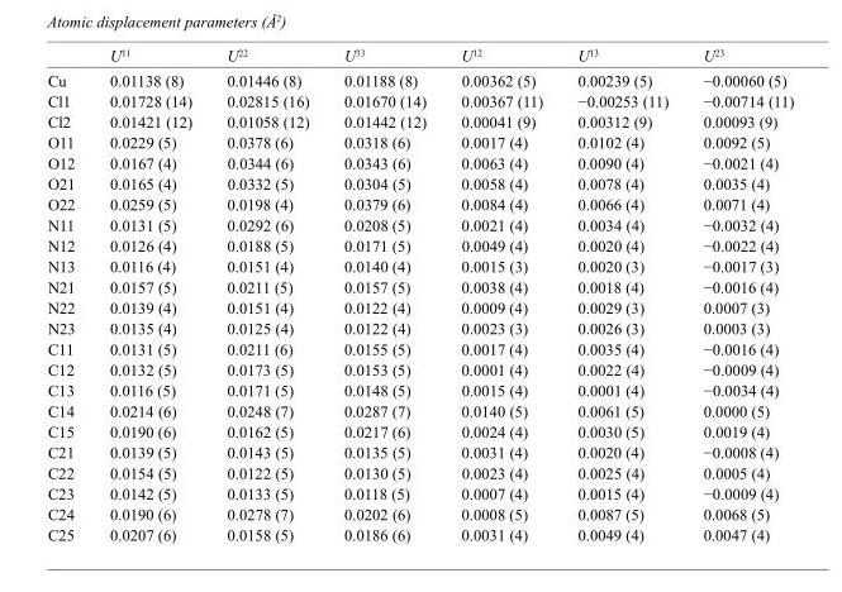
<table><thead><tr><td></td><td>U<sup>11</sup></td><td>U<sup>22</sup></td><td>U<sup>33</sup></td><td>U<sup>12</sup></td><td>U<sup>13</sup></td><td>U<sup>23</sup></td></tr></thead><tbody><tr><td>Cu</td><td>0.01138 (8)</td><td>0.01446 (8)</td><td>0.01188 (8)</td><td>0.00362 (5)</td><td>0.00239 (5)</td><td>−0.00060 (5)</td></tr><tr><td>Cl1</td><td>0.01728 (14)</td><td>0.02815 (16)</td><td>0.01670 (14)</td><td>0.00367 (11)</td><td>−0.00253 (11)</td><td>−0.00714 (11)</td></tr><tr><td>Cl2</td><td>0.01421 (12)</td><td>0.01058 (12)</td><td>0.01442 (12)</td><td>0.00041 (9)</td><td>0.00312 (9)</td><td>0.00093 (9)</td></tr><tr><td>O11</td><td>0.0229 (5)</td><td>0.0378 (6)</td><td>0.0318 (6)</td><td>0.0017 (4)</td><td>0.0102 (4)</td><td>0.0092 (5)</td></tr><tr><td>O12</td><td>0.0167 (4)</td><td>0.0344 (6)</td><td>0.0343 (6)</td><td>0.0063 (4)</td><td>0.0090 (4)</td><td>−0.0021 (4)</td></tr><tr><td>O21</td><td>0.0165 (4)</td><td>0.0332 (5)</td><td>0.0304 (5)</td><td>0.0058 (4)</td><td>0.0078 (4)</td><td>0.0035 (4)</td></tr><tr><td>O22</td><td>0.0259 (5)</td><td>0.0198 (4)</td><td>0.0379 (6)</td><td>0.0084 (4)</td><td>0.0066 (4)</td><td>0.0071 (4)</td></tr><tr><td>N11</td><td>0.0131 (5)</td><td>0.0292 (6)</td><td>0.0208 (5)</td><td>0.0021 (4)</td><td>0.0034 (4)</td><td>−0.0032 (4)</td></tr><tr><td>N12</td><td>0.0126 (4)</td><td>0.0188 (5)</td><td>0.0171 (5)</td><td>0.0049 (4)</td><td>0.0020 (4)</td><td>−0.0022 (4)</td></tr><tr><td>N13</td><td>0.0116 (4)</td><td>0.0151 (4)</td><td>0.0140 (4)</td><td>0.0015 (3)</td><td>0.0020 (3)</td><td>−0.0017 (3)</td></tr><tr><td>N21</td><td>0.0157 (5)</td><td>0.0211 (5)</td><td>0.0157 (5)</td><td>0.0038 (4)</td><td>0.0018 (4)</td><td>−0.0016 (4)</td></tr><tr><td>N22</td><td>0.0139 (4)</td><td>0.0151 (4)</td><td>0.0122 (4)</td><td>0.0009 (4)</td><td>0.0029 (3)</td><td>0.0007 (3)</td></tr><tr><td>N23</td><td>0.0135 (4)</td><td>0.0125 (4)</td><td>0.0122 (4)</td><td>0.0023 (3)</td><td>0.0026 (3)</td><td>0.0003 (3)</td></tr><tr><td>C11</td><td>0.0131 (5)</td><td>0.0211 (6)</td><td>0.0155 (5)</td><td>0.0017 (4)</td><td>0.0035 (4)</td><td>−0.0016 (4)</td></tr><tr><td>C12</td><td>0.0132 (5)</td><td>0.0173 (5)</td><td>0.0153 (5)</td><td>0.0001 (4)</td><td>0.0022 (4)</td><td>−0.0009 (4)</td></tr><tr><td>C13</td><td>0.0116 (5)</td><td>0.0171 (5)</td><td>0.0148 (5)</td><td>0.0015 (4)</td><td>0.0001 (4)</td><td>−0.0034 (4)</td></tr><tr><td>C14</td><td>0.0214 (6)</td><td>0.0248 (7)</td><td>0.0287 (7)</td><td>0.0140 (5)</td><td>0.0061 (5)</td><td>0.0000 (5)</td></tr><tr><td>C15</td><td>0.0190 (6)</td><td>0.0162 (5)</td><td>0.0217 (6)</td><td>0.0024 (4)</td><td>0.0030 (5)</td><td>0.0019 (4)</td></tr><tr><td>C21</td><td>0.0139 (5)</td><td>0.0143 (5)</td><td>0.0135 (5)</td><td>0.0031 (4)</td><td>0.0020 (4)</td><td>−0.0008 (4)</td></tr><tr><td>C22</td><td>0.0154 (5)</td><td>0.0122 (5)</td><td>0.0130 (5)</td><td>0.0023 (4)</td><td>0.0025 (4)</td><td>0.0005 (4)</td></tr><tr><td>C23</td><td>0.0142 (5)</td><td>0.0133 (5)</td><td>0.0118 (5)</td><td>0.0007 (4)</td><td>0.0015 (4)</td><td>−0.0009 (4)</td></tr><tr><td>C24</td><td>0.0190 (6)</td><td>0.0278 (7)</td><td>0.0202 (6)</td><td>0.0008 (5)</td><td>0.0087 (5)</td><td>0.0068 (5)</td></tr><tr><td>C25</td><td>0.0207 (6)</td><td>0.0158 (5)</td><td>0.0186 (6)</td><td>0.0031 (4)</td><td>0.0049 (4)</td><td>0.0047 (4)</td></tr></tbody></table>